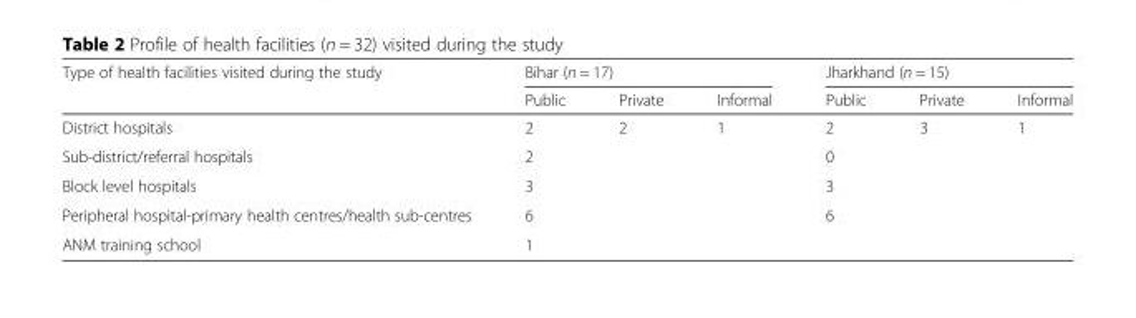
<table><thead><tr><td rowspan="2">Type of health facilities visited during the study</td><td colspan="3">Bihar (n = 17)</td><td colspan="3">Jharkhand (n = 15)</td></tr><tr><td>Public</td><td>Private</td><td>Informal</td><td>Public</td><td>Private</td><td>Informal</td></tr></thead><tbody><tr><td>District hospitals</td><td>2</td><td>2</td><td rowspan="5">1</td><td>2</td><td>3</td><td rowspan="5">1</td></tr><tr><td>Sub-district/referral hospitals</td><td>2</td><td></td><td>0</td><td></td></tr><tr><td>Block level hospitals</td><td>3</td><td></td><td>3</td><td></td></tr><tr><td>Peripheral hospital-primary health centres/health sub-centres</td><td>6</td><td></td><td>6</td><td></td></tr><tr><td>ANM training school</td><td>1</td><td></td><td></td><td></td></tr></tbody></table>